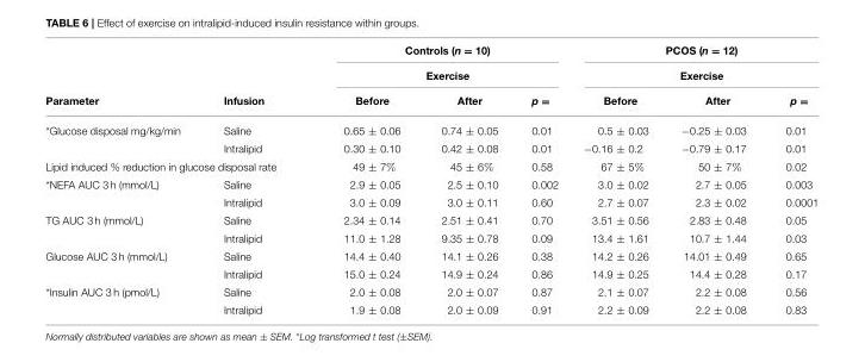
<table><thead><tr><td rowspan="3">Parameter</td><td rowspan="3">Infusion</td><td rowspan="2" colspan="3">Controls (n = 10) Exercise</td><td rowspan="2" colspan="3">PCOS (n = 12) Exercise</td></tr><tr></tr><tr><td>Before</td><td>After</td><td>p =</td><td>Before</td><td>After</td><td>p =</td></tr></thead><tbody><tr><td rowspan="2">*Glucose disposal mg/kg/min</td><td>Saline</td><td>0.65 ± 0.06</td><td>0.74 ± 0.05</td><td>0.01</td><td>0.5 ± 0.03</td><td>−0.25 ± 0.03</td><td>0.01</td></tr><tr><td>Intralipid</td><td>0.30 ± 0.10</td><td>0.42 ± 0.08</td><td>0.01</td><td>−0.16 ± 0.2</td><td>−0.79 ± 0.17</td><td>0.01</td></tr><tr><td colspan="2">Lipid induced % reduction in glucose disposal rate</td><td>49 ± 7%</td><td>45 ± 6%</td><td>0.58</td><td>67 ± 5%</td><td>50 ± 7%</td><td>0.02</td></tr><tr><td rowspan="2">*NEFA AUC 3 h (mmol/L)</td><td>Saline</td><td>2.9 ± 0.05</td><td>2.5 ± 0.10</td><td>0.002</td><td>3.0 ± 0.02</td><td>2.7 ± 0.05</td><td>0.003</td></tr><tr><td>Intralipid</td><td>3.0 ± 0.09</td><td>3.0 ± 0.11</td><td>0.60</td><td>2.7 ± 0.07</td><td>2.3 ± 0.02</td><td>0.0001</td></tr><tr><td rowspan="2">TG AUC 3 h (mmol/L)</td><td>Saline</td><td>2.34 ± 0.14</td><td>2.51 ± 0.41</td><td>0.70</td><td>3.51 ± 0.56</td><td>2.83 ± 0.48</td><td>0.05</td></tr><tr><td>Intralipid</td><td>11.0 ± 1.28</td><td>9.35 ± 0.78</td><td>0.09</td><td>13.4 ± 1.61</td><td>10.7 ± 1.44</td><td>0.03</td></tr><tr><td rowspan="2">Glucose AUC 3 h (mmol/L)</td><td>Saline</td><td>14.4 ± 0.40</td><td>14.1 ± 0.26</td><td>0.38</td><td>14.2 ± 0.26</td><td>14.01 ± 0.49</td><td>0.65</td></tr><tr><td>Intralipid</td><td>15.0 ± 0.24</td><td>14.9 ± 0.24</td><td>0.86</td><td>14.9 ± 0.25</td><td>14.4 ± 0.28</td><td>0.17</td></tr><tr><td rowspan="2">*Insulin AUC 3 h (pmol/L)</td><td>Saline</td><td>2.0 ± 0.08</td><td>2.0 ± 0.07</td><td>0.87</td><td>2.1 ± 0.07</td><td>2.2 ± 0.08</td><td>0.56</td></tr><tr><td>Intralipid</td><td>1.9 ± 0.08</td><td>2.0 ± 0.09</td><td>0.91</td><td>2.2 ± 0.09</td><td>2.2 ± 0.08</td><td>0.83</td></tr></tbody></table>